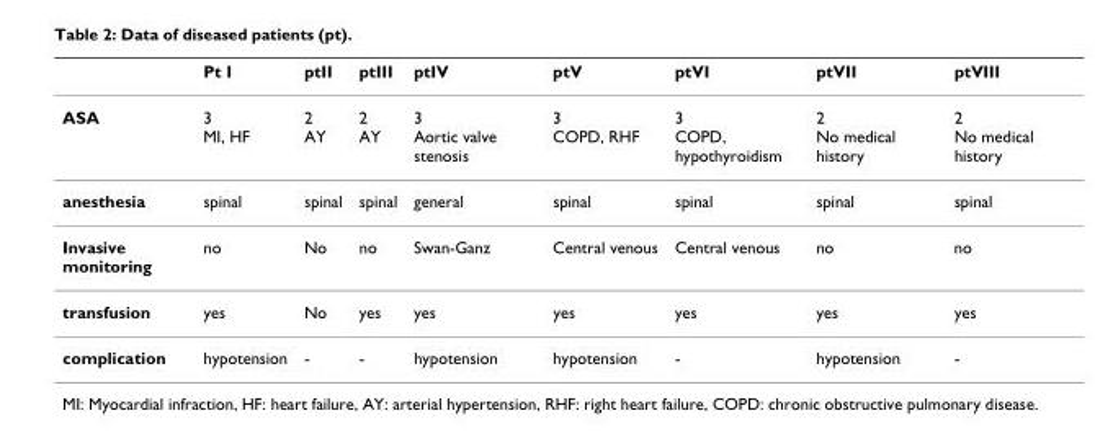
<table><thead><tr><td></td><td>Pt I</td><td>ptII</td><td>ptIII</td><td>ptIV</td><td>ptV</td><td>ptVI</td><td>ptVII</td><td>ptVIII</td></tr></thead><tbody><tr><td>ASA</td><td>3 MI, HF</td><td>2 AY</td><td>2 AY</td><td>3 Aortic valve stenosis</td><td>3 COPD, RHF</td><td>3 COPD, hypothyroidism</td><td>2 No medical history</td><td>2 No medical history</td></tr><tr><td>anesthesia</td><td>spinal</td><td>spinal</td><td>spinal</td><td>general</td><td>spinal</td><td>spinal</td><td>spinal</td><td>spinal</td></tr><tr><td>Invasive monitoring</td><td>no</td><td>No</td><td>no</td><td>Swan-Ganz</td><td>Central venous</td><td>Central venous</td><td>no</td><td>no</td></tr><tr><td>transfusion</td><td>yes</td><td>No</td><td>yes</td><td>yes</td><td>yes</td><td>yes</td><td>yes</td><td>yes</td></tr><tr><td>complication</td><td>hypotension</td><td>-</td><td>-</td><td>hypotension</td><td>hypotension</td><td>-</td><td>hypotension</td><td>-</td></tr></tbody></table>